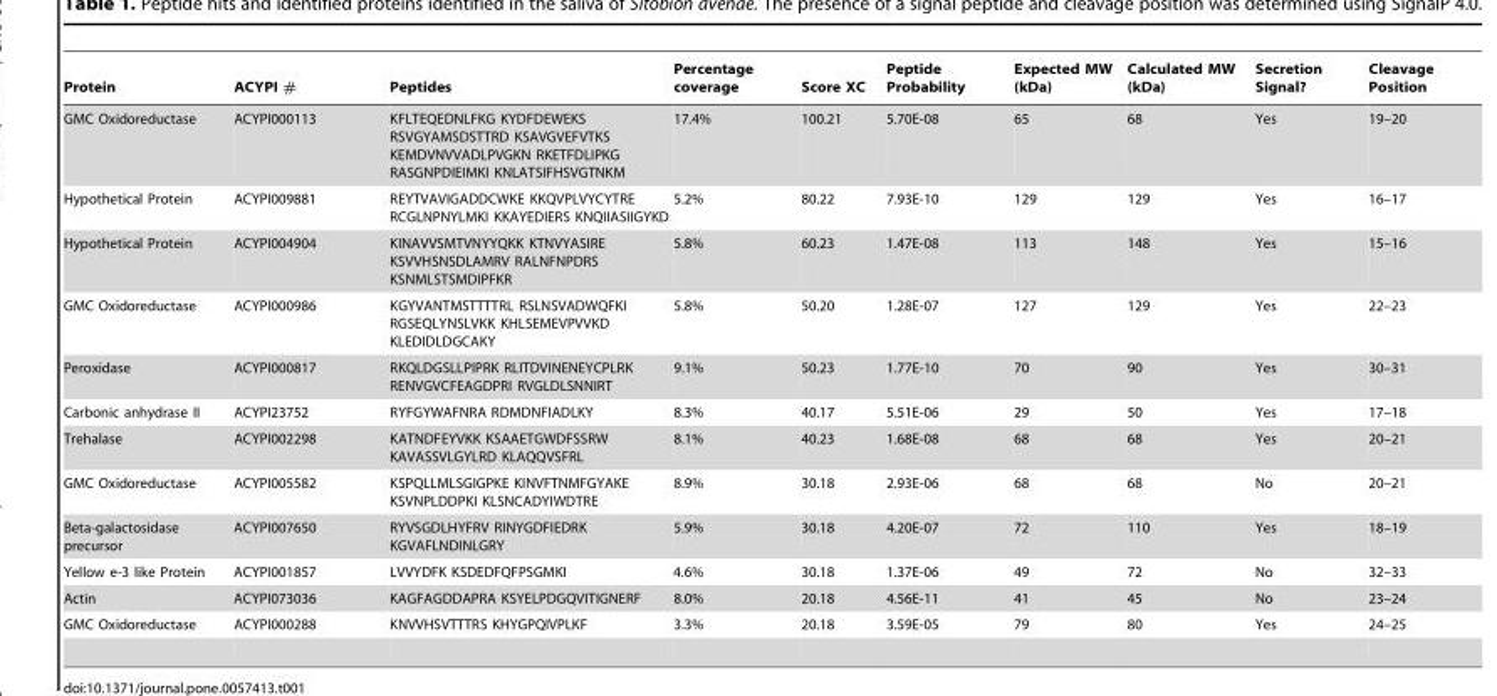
<table><thead><tr><td>Protein</td><td>ACYPI #</td><td>Peptides</td><td>Percentage coverage</td><td>Score XC</td><td>Peptide Probability</td><td>Expected MW (kDa)</td><td>Calculated MW (kDa)</td><td>Secretion Signal?</td><td>Cleavage Position</td></tr></thead><tbody><tr><td>GMC Oxidoreductase</td><td>ACYPI000113</td><td>KFLTEQEDNLFKG KYDFDEWEKS RSVGYAMSDSTTRD KSAVGVEFVTKS KEMDVNVVADLPVGKN RKETFDLIPKG RASGNPDIEIMKI KNLATSIFHSVGTNKM</td><td>17.4%</td><td>100.21</td><td>5.70E-08</td><td>65</td><td>68</td><td>Yes</td><td>19–20</td></tr><tr><td>Hypothetical Protein</td><td>ACYPI009881</td><td>REYTVAVIGADDCWKE KKQVPLVYCYTRE RCGLNPNYLMKI KKAYEDIERS KNQIIASIIGYKD</td><td>5.2%</td><td>80.22</td><td>7.93E-10</td><td>129</td><td>129</td><td>Yes</td><td>16–17</td></tr><tr><td>Hypothetical Protein</td><td>ACYPI004904</td><td>KINAVVSMTVNYYQKK KTNVYASIRE KSVVHSNSDLAMRV RALNFNPDRS KSNMLSTSMDIPFKR</td><td>5.8%</td><td>60.23</td><td>1.47E-08</td><td>113</td><td>148</td><td>Yes</td><td>15–16</td></tr><tr><td>GMC Oxidoreductase</td><td>ACYPI000986</td><td>KGYVANTMSTTTTRL RSLNSVADWQFKI RGSEQLYNSLVKK KHLSEMEVPVVKD KLEDIDLDGCAKY</td><td>5.8%</td><td>50.20</td><td>1.28E-07</td><td>127</td><td>129</td><td>Yes</td><td>22–23</td></tr><tr><td>Peroxidase</td><td>ACYPI000817</td><td>RKQLDGSLLPIPRK RLITDVINENEYCPLRK RENVGVCFEAGDPRI RVGLDLSNNIRT</td><td>9.1%</td><td>50.23</td><td>1.77E-10</td><td>70</td><td>90</td><td>Yes</td><td>30–31</td></tr><tr><td>Carbonic anhydrase II</td><td>ACYPI23752</td><td>RYFGYWAFNRA RDMDNFIADLKY</td><td>8.3%</td><td>40.17</td><td>5.51E-06</td><td>29</td><td>50</td><td>Yes</td><td>17–18</td></tr><tr><td>Trehalase</td><td>ACYPI002298</td><td>KATNDFEYVKK KSAAETGWDFSSRW KAVASSVLGYLRD KLAQQVSFRL</td><td>8.1%</td><td>40.23</td><td>1.68E-08</td><td>68</td><td>68</td><td>Yes</td><td>20–21</td></tr><tr><td>GMC Oxidoreductase</td><td>ACYPI005582</td><td>KSPQLLMLSGIGPKE KINVFTNMFGYAKE KSVNPLDDPKI KLSNCADYIWDTRE</td><td>8.9%</td><td>30.18</td><td>2.93E-06</td><td>68</td><td>68</td><td>No</td><td>20–21</td></tr><tr><td>Beta-galactosidase precursor</td><td>ACYPI007650</td><td>RYVSGDLHYFRV RINYGDFIEDRK KGVAFLNDINLGRY</td><td>5.9%</td><td>30.18</td><td>4.20E-07</td><td>72</td><td>110</td><td>Yes</td><td>18–19</td></tr><tr><td>Yellow e-3 like Protein</td><td>ACYPI001857</td><td>LVVYDFK KSDEDFQFPSGMKI</td><td>4.6%</td><td>30.18</td><td>1.37E-06</td><td>49</td><td>72</td><td>No</td><td>32–33</td></tr><tr><td>Actin</td><td>ACYPI073036</td><td>KAGFAGDDAPRA KSYELPDGQVITIGNERF</td><td>8.0%</td><td>20.18</td><td>4.56E-11</td><td>41</td><td>45</td><td>No</td><td>23–24</td></tr><tr><td>GMC Oxidoreductase</td><td>ACYPI000288</td><td>KNVVHSVTTTRS KHYGPQIVPLKF</td><td>3.3%</td><td>20.18</td><td>3.59E-05</td><td>79</td><td>80</td><td>Yes</td><td>24–25</td></tr></tbody></table>